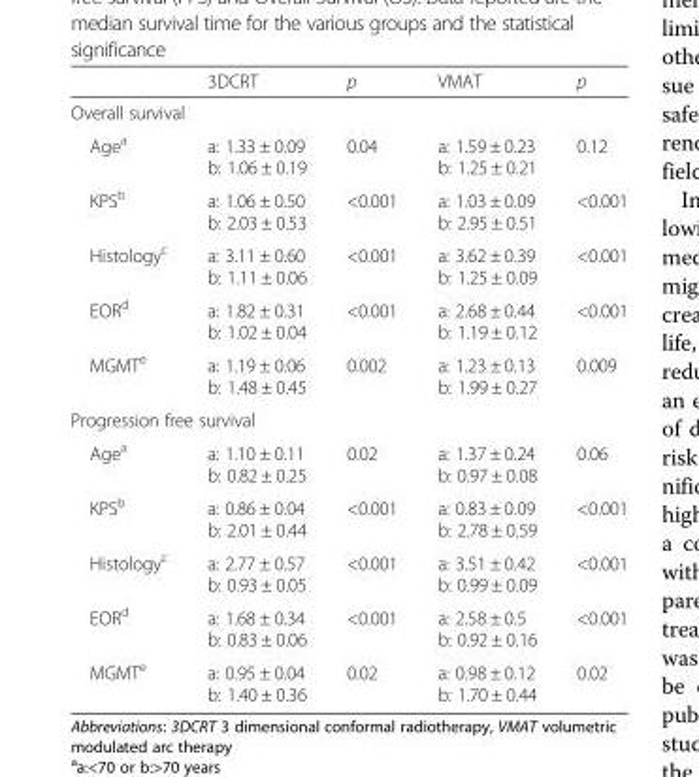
<table><thead><tr><td></td><td>3DCRT</td><td>p</td><td>VMAT</td><td>p</td></tr></thead><tbody><tr><td colspan="5">Overall survival</td></tr><tr><td>Age<sup>a</sup></td><td>a: 1.33 ± 0.09 b: 1.06 ± 0.19</td><td>0.04</td><td>a: 1.59 ± 0.23 b: 1.25 ± 0.21</td><td>0.12</td></tr><tr><td>KPS<sup>b</sup></td><td>a: 1.06 ± 0.50 b: 2.03 ± 0.53</td><td>&lt;0.001</td><td>a: 1.03 ± 0.09 b: 2.95 ± 0.51</td><td>&lt;0.001</td></tr><tr><td>Histology<sup>c</sup></td><td>a: 3.11 ± 0.60 b: 1.11 ± 0.06</td><td>&lt;0.001</td><td>a: 3.62 ± 0.39 b: 1.25 ± 0.09</td><td>&lt;0.001</td></tr><tr><td>EOR<sup>d</sup></td><td>a: 1.82 ± 0.31 b: 1.02 ± 0.04</td><td>&lt;0.001</td><td>a: 2.68 ± 0.44 b: 1.19 ± 0.12</td><td>&lt;0.001</td></tr><tr><td>MGMT<sup>e</sup></td><td>a: 1.19 ± 0.06 b: 1.48 ± 0.45</td><td>0.002</td><td>a: 1.23 ± 0.13 b: 1.99 ± 0.27</td><td>0.009</td></tr><tr><td colspan="5">Progression free survival</td></tr><tr><td>Age<sup>a</sup></td><td>a: 1.10 ± 0.11 b: 0.82 ± 0.25</td><td>0.02</td><td>a: 1.37 ± 0.24 b: 0.97 ± 0.08</td><td>0.06</td></tr><tr><td>KPS<sup>b</sup></td><td>a: 0.86 ± 0.04 b: 2.01 ± 0.44</td><td>&lt;0.001</td><td>a: 0.83 ± 0.09 b: 2.78 ± 0.59</td><td>&lt;0.001</td></tr><tr><td>Histology<sup>c</sup></td><td>a: 2.77 ± 0.57 b: 0.93 ± 0.05</td><td>&lt;0.001</td><td>a: 3.51 ± 0.42 b: 0.99 ± 0.09</td><td>&lt;0.001</td></tr><tr><td>EOR<sup>d</sup></td><td>a: 1.68 ± 0.34 b: 0.83 ± 0.06</td><td>&lt;0.001</td><td>a: 2.58 ± 0.5 b: 0.92 ± 0.16</td><td>&lt;0.001</td></tr><tr><td>MGMT<sup>e</sup></td><td>a: 0.95 ± 0.04 b: 1.40 ± 0.36</td><td>0.02</td><td>a: 0.98 ± 0.12 b: 1.70 ± 0.44</td><td>0.02</td></tr></tbody></table>